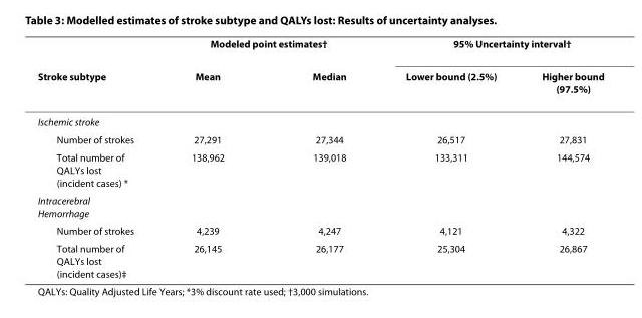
<table><thead><tr><td rowspan="2">Stroke subtype</td><td colspan="2">Modeled point estimates†</td><td colspan="2">95% Uncertainty interval†</td></tr><tr><td>Mean</td><td>Median</td><td>Lower bound (2.5%)</td><td>Higher bound (97.5%)</td></tr></thead><tbody><tr><td colspan="5">Ischemic stroke</td></tr><tr><td>Number of strokes</td><td>27,291</td><td>27,344</td><td>26,517</td><td>27,831</td></tr><tr><td>Total number of QALYs lost (incident cases) *</td><td>138,962</td><td>139,018</td><td>133,311</td><td>144,574</td></tr><tr><td colspan="5">Intracerebral Hemorrhage</td></tr><tr><td>Number of strokes</td><td>4,239</td><td>4,247</td><td>4,121</td><td>4,322</td></tr><tr><td>Total number of QALYs lost (incident cases)‡</td><td>26,145</td><td>26,177</td><td>25,304</td><td>26,867</td></tr></tbody></table>